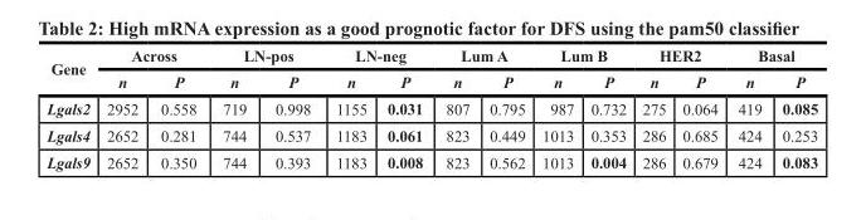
<table><thead><tr><td rowspan="2">Gene</td><td colspan="2">Across</td><td colspan="2">LN-pos</td><td colspan="2">LN-neg</td><td colspan="2">Lum A</td><td colspan="2">Lum B</td><td colspan="2">HER2</td><td colspan="2">Basal</td></tr><tr><td>n</td><td>P</td><td>n</td><td>P</td><td>n</td><td>P</td><td>n</td><td>P</td><td>n</td><td>P</td><td>n</td><td>P</td><td>n</td><td>P</td></tr></thead><tbody><tr><td>Lgals2</td><td>2952</td><td>0.558</td><td>719</td><td>0.998</td><td>1155</td><td>0.031</td><td>807</td><td>0.795</td><td>987</td><td>0.732</td><td>275</td><td>0.064</td><td>419</td><td>0.085</td></tr><tr><td>Lgals4</td><td>2652</td><td>0.281</td><td>744</td><td>0.537</td><td>1183</td><td>0.061</td><td>823</td><td>0.449</td><td>1013</td><td>0.353</td><td>286</td><td>0.685</td><td>424</td><td>0.253</td></tr><tr><td>Lgals9</td><td>2652</td><td>0.350</td><td>744</td><td>0.393</td><td>1183</td><td>0.008</td><td>823</td><td>0.562</td><td>1013</td><td>0.004</td><td>286</td><td>0.679</td><td>424</td><td>0.083</td></tr></tbody></table>